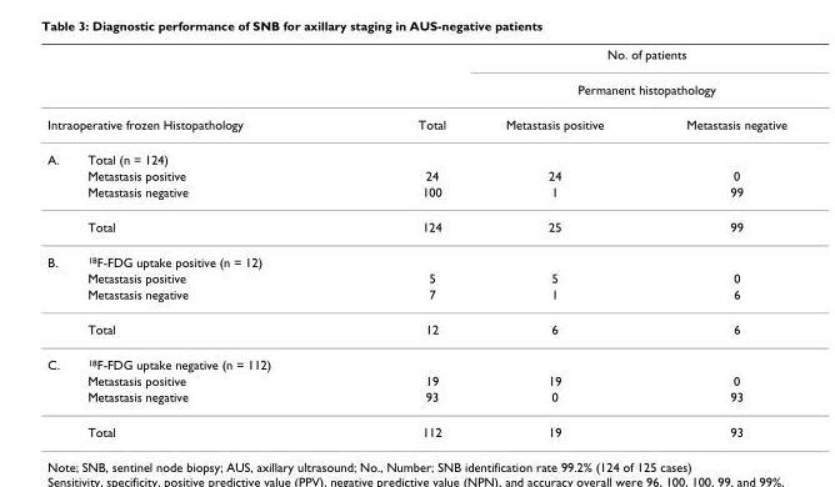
<table><thead><tr><td rowspan="2"></td><td rowspan="2"></td><td rowspan="3">Total</td><td rowspan="2" colspan="2">No. of patients Permanent histopathology</td></tr><tr></tr><tr><td colspan="2">Intraoperative frozen Histopathology</td><td>Metastasis positive</td><td>Metastasis negative</td></tr></thead><tbody><tr><td rowspan="4">A.</td><td>Total (n = 124)</td><td></td><td></td><td></td></tr><tr><td>Metastasis positive</td><td>24</td><td>24</td><td>0</td></tr><tr><td>Metastasis negative</td><td>100</td><td>1</td><td>99</td></tr><tr><td>Total</td><td>124</td><td>25</td><td>99</td></tr><tr><td rowspan="4">B.</td><td><sup>18</sup>F-FDG uptake positive (n = 12)</td><td></td><td></td><td></td></tr><tr><td>Metastasis positive</td><td>5</td><td>5</td><td>0</td></tr><tr><td>Metastasis negative</td><td>7</td><td>1</td><td>6</td></tr><tr><td>Total</td><td>12</td><td>6</td><td>6</td></tr><tr><td rowspan="4">C.</td><td><sup>18</sup>F-FDG uptake negative (n = 112)</td><td></td><td></td><td></td></tr><tr><td>Metastasis positive</td><td>19</td><td>19</td><td>0</td></tr><tr><td>Metastasis negative</td><td>93</td><td>0</td><td>93</td></tr><tr><td>Total</td><td>112</td><td>19</td><td>93</td></tr></tbody></table>